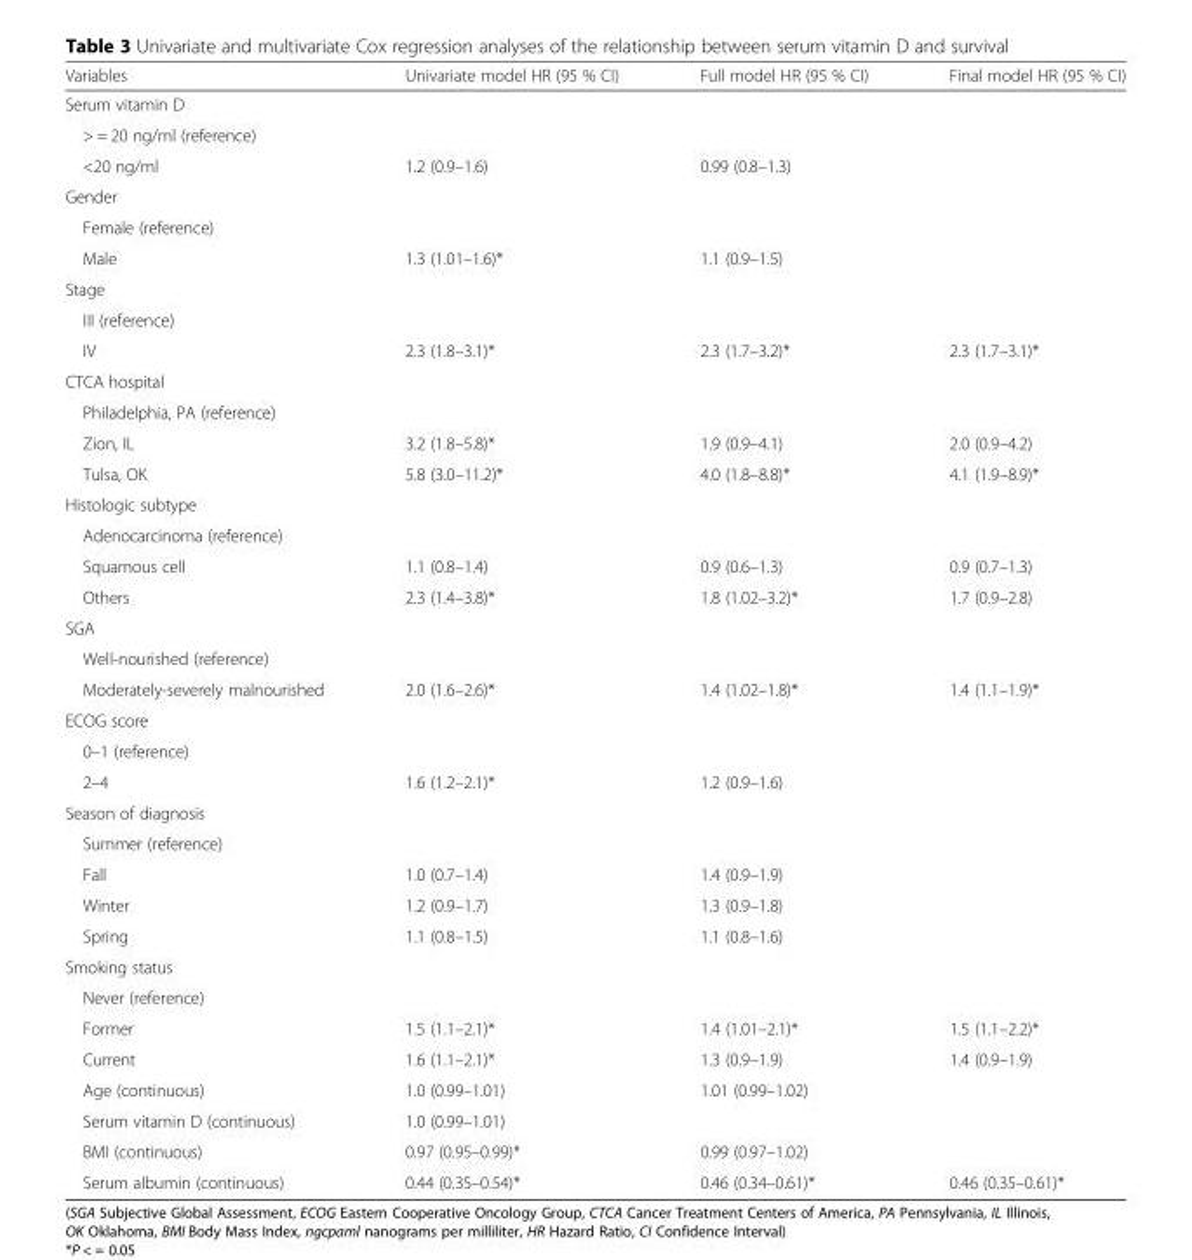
<table><thead><tr><td>Variables</td><td>Univariate model HR (95 % CI)</td><td>Full model HR (95 % CI)</td><td>Final model HR (95 % CI)</td></tr></thead><tbody><tr><td colspan="4">Serum vitamin D</td></tr><tr><td colspan="4">&gt; = 20 ng/ml (reference)</td></tr><tr><td>&lt;20 ng/ml</td><td>1.2 (0.9–1.6)</td><td>0.99 (0.8–1.3)</td><td></td></tr><tr><td colspan="4">Gender</td></tr><tr><td colspan="4">Female (reference)</td></tr><tr><td>Male</td><td>1.3 (1.01–1.6)*</td><td>1.1 (0.9–1.5)</td><td></td></tr><tr><td colspan="4">Stage</td></tr><tr><td colspan="4">III (reference)</td></tr><tr><td>IV</td><td>2.3 (1.8–3.1)*</td><td>2.3 (1.7–3.2)*</td><td>2.3 (1.7–3.1)*</td></tr><tr><td colspan="4">CTCA hospital</td></tr><tr><td colspan="4">Philadelphia, PA (reference)</td></tr><tr><td>Zion, IL</td><td>3.2 (1.8–5.8)*</td><td>1.9 (0.9–4.1)</td><td>2.0 (0.9–4.2)</td></tr><tr><td>Tulsa, OK</td><td>5.8 (3.0–11.2)*</td><td>4.0 (1.8–8.8)*</td><td>4.1 (1.9–8.9)*</td></tr><tr><td colspan="4">Histologic subtype</td></tr><tr><td colspan="4">Adenocarcinoma (reference)</td></tr><tr><td>Squamous cell</td><td>1.1 (0.8–1.4)</td><td>0.9 (0.6–1.3)</td><td>0.9 (0.7–1.3)</td></tr><tr><td>Others</td><td>2.3 (1.4–3.8)*</td><td>1.8 (1.02–3.2)*</td><td>1.7 (0.9–2.8)</td></tr><tr><td colspan="4">SGA</td></tr><tr><td colspan="4">Well-nourished (reference)</td></tr><tr><td>Moderately-severely malnourished</td><td>2.0 (1.6–2.6)*</td><td>1.4 (1.02–1.8)*</td><td>1.4 (1.1–1.9)*</td></tr><tr><td colspan="4">ECOG score</td></tr><tr><td colspan="4">0–1 (reference)</td></tr><tr><td>2–4</td><td>1.6 (1.2–2.1)*</td><td>1.2 (0.9–1.6)</td><td></td></tr><tr><td colspan="4">Season of diagnosis</td></tr><tr><td colspan="4">Summer (reference)</td></tr><tr><td>Fall</td><td>1.0 (0.7–1.4)</td><td>1.4 (0.9–1.9)</td><td></td></tr><tr><td>Winter</td><td>1.2 (0.9–1.7)</td><td>1.3 (0.9–1.8)</td><td></td></tr><tr><td>Spring</td><td>1.1 (0.8–1.5)</td><td>1.1 (0.8–1.6)</td><td></td></tr><tr><td colspan="4">Smoking status</td></tr><tr><td colspan="4">Never (reference)</td></tr><tr><td>Former</td><td>1.5 (1.1–2.1)*</td><td>1.4 (1.01–2.1)*</td><td>1.5 (1.1–2.2)*</td></tr><tr><td>Current</td><td>1.6 (1.1–2.1)*</td><td>1.3 (0.9–1.9)</td><td>1.4 (0.9–1.9)</td></tr><tr><td>Age (continuous)</td><td>1.0 (0.99–1.01)</td><td>1.01 (0.99–1.02)</td><td></td></tr><tr><td>Serum vitamin D (continuous)</td><td>1.0 (0.99–1.01)</td><td></td><td></td></tr><tr><td>BMI (continuous)</td><td>0.97 (0.95–0.99)*</td><td>0.99 (0.97–1.02)</td><td></td></tr><tr><td>Serum albumin (continuous)</td><td>0.44 (0.35–0.54)*</td><td>0.46 (0.34–0.61)*</td><td>0.46 (0.35–0.61)*</td></tr></tbody></table>